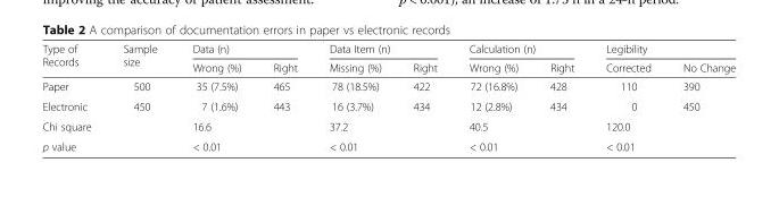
<table><thead><tr><td rowspan="2">Type of Records</td><td rowspan="2">Sample size</td><td colspan="2">Data (n)</td><td colspan="2">Data Item (n)</td><td colspan="2">Calculation (n)</td><td colspan="2">Legibility</td></tr><tr><td>Wrong (%)</td><td>Right</td><td>Missing (%)</td><td>Right</td><td>Wrong (%)</td><td>Right</td><td>Corrected</td><td>No Change</td></tr></thead><tbody><tr><td>Paper</td><td>500</td><td>35 (7.5%)</td><td>465</td><td>78 (18.5%)</td><td>422</td><td>72 (16.8%)</td><td>428</td><td>110</td><td>390</td></tr><tr><td>Electronic</td><td>450</td><td>7 (1.6%)</td><td>443</td><td>16 (3.7%)</td><td>434</td><td>12 (2.8%)</td><td>434</td><td>0</td><td>450</td></tr><tr><td>Chi square</td><td></td><td colspan="2">16.6</td><td colspan="2">37.2</td><td colspan="2">40.5</td><td colspan="2">120.0</td></tr><tr><td>p value</td><td></td><td colspan="2">&lt; 0.01</td><td colspan="2">&lt; 0.01</td><td colspan="2">&lt; 0.01</td><td colspan="2">&lt; 0.01</td></tr></tbody></table>